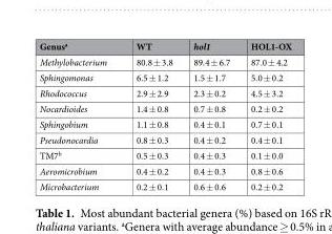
<table><thead><tr><td>Genus<sup>a</sup></td><td>WT</td><td>hol1</td><td>HOL1-OX</td></tr></thead><tbody><tr><td>Methylobacterium</td><td>80.8 ± 3.8</td><td>89.4 ± 6.7</td><td>87.0 ± 4.2</td></tr><tr><td>Sphingomonas</td><td>6.5 ± 1.2</td><td>1.5 ± 1.7</td><td>5.0 ± 0.2</td></tr><tr><td>Rhodococcus</td><td>2.9 ± 2.9</td><td>2.3 ± 0.2</td><td>4.5 ± 3.2</td></tr><tr><td>Nocardioides</td><td>1.4 ± 0.8</td><td>0.7 ± 0.8</td><td>0.2 ± 0.2</td></tr><tr><td>Sphingobium</td><td>1.1 ± 0.8</td><td>0.4 ± 0.1</td><td>0.7 ± 0.1</td></tr><tr><td>Pseudonocardia</td><td>0.8 ± 0.3</td><td>0.4 ± 0.2</td><td>0.4 ± 0.1</td></tr><tr><td>TM7<sup>b</sup></td><td>0.5 ± 0.3</td><td>0.4 ± 0.3</td><td>0.1 ± 0.0</td></tr><tr><td>Aeromicrobium</td><td>0.4 ± 0.2</td><td>0.4 ± 0.3</td><td>0.8 ± 0.6</td></tr><tr><td>Microbacterium</td><td>0.2 ± 0.1</td><td>0.6 ± 0.6</td><td>0.2 ± 0.2</td></tr></tbody></table>